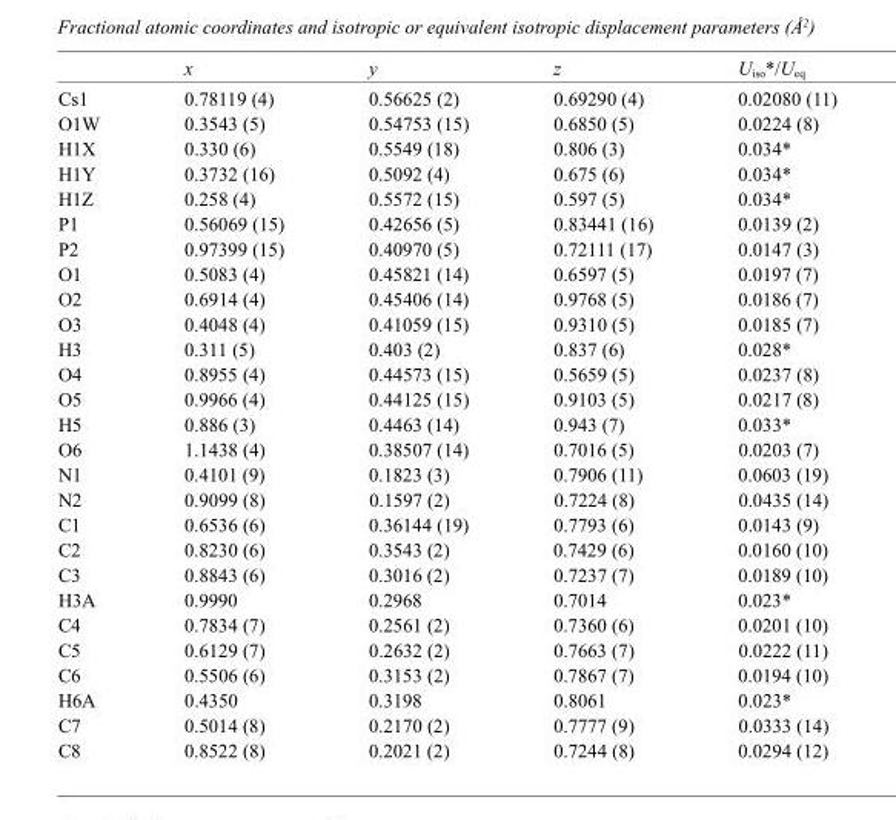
<table><thead><tr><td></td><td>x</td><td>y</td><td>z</td><td>U<sub>iso</sub>*/U<sub>eq</sub></td></tr></thead><tbody><tr><td>Cs1</td><td>0.78119 (4)</td><td>0.56625 (2)</td><td>0.69290 (4)</td><td>0.02080 (11)</td></tr><tr><td>O1W</td><td>0.3543 (5)</td><td>0.54753 (15)</td><td>0.6850 (5)</td><td>0.0224 (8)</td></tr><tr><td>H1X</td><td>0.330 (6)</td><td>0.5549 (18)</td><td>0.806 (3)</td><td>0.034*</td></tr><tr><td>H1Y</td><td>0.3732 (16)</td><td>0.5092 (4)</td><td>0.675 (6)</td><td>0.034*</td></tr><tr><td>H1Z</td><td>0.258 (4)</td><td>0.5572 (15)</td><td>0.597 (5)</td><td>0.034*</td></tr><tr><td>P1</td><td>0.56069 (15)</td><td>0.42656 (5)</td><td>0.83441 (16)</td><td>0.0139 (2)</td></tr><tr><td>P2</td><td>0.97399 (15)</td><td>0.40970 (5)</td><td>0.72111 (17)</td><td>0.0147 (3)</td></tr><tr><td>O1</td><td>0.5083 (4)</td><td>0.45821 (14)</td><td>0.6597 (5)</td><td>0.0197 (7)</td></tr><tr><td>O2</td><td>0.6914 (4)</td><td>0.45406 (14)</td><td>0.9768 (5)</td><td>0.0186 (7)</td></tr><tr><td>O3</td><td>0.4048 (4)</td><td>0.41059 (15)</td><td>0.9310 (5)</td><td>0.0185 (7)</td></tr><tr><td>H3</td><td>0.311 (5)</td><td>0.403 (2)</td><td>0.837 (6)</td><td>0.028*</td></tr><tr><td>O4</td><td>0.8955 (4)</td><td>0.44573 (15)</td><td>0.5659 (5)</td><td>0.0237 (8)</td></tr><tr><td>O5</td><td>0.9966 (4)</td><td>0.44125 (15)</td><td>0.9103 (5)</td><td>0.0217 (8)</td></tr><tr><td>H5</td><td>0.886 (3)</td><td>0.4463 (14)</td><td>0.943 (7)</td><td>0.033*</td></tr><tr><td>O6</td><td>1.1438 (4)</td><td>0.38507 (14)</td><td>0.7016 (5)</td><td>0.0203 (7)</td></tr><tr><td>N1</td><td>0.4101 (9)</td><td>0.1823 (3)</td><td>0.7906 (11)</td><td>0.0603 (19)</td></tr><tr><td>N2</td><td>0.9099 (8)</td><td>0.1597 (2)</td><td>0.7224 (8)</td><td>0.0435 (14)</td></tr><tr><td>C1</td><td>0.6536 (6)</td><td>0.36144 (19)</td><td>0.7793 (6)</td><td>0.0143 (9)</td></tr><tr><td>C2</td><td>0.8230 (6)</td><td>0.3543 (2)</td><td>0.7429 (6)</td><td>0.0160 (10)</td></tr><tr><td>C3</td><td>0.8843 (6)</td><td>0.3016 (2)</td><td>0.7237 (7)</td><td>0.0189 (10)</td></tr><tr><td>H3A</td><td>0.9990</td><td>0.2968</td><td>0.7014</td><td>0.023*</td></tr><tr><td>C4</td><td>0.7834 (7)</td><td>0.2561 (2)</td><td>0.7360 (6)</td><td>0.0201 (10)</td></tr><tr><td>C5</td><td>0.6129 (7)</td><td>0.2632 (2)</td><td>0.7663 (7)</td><td>0.0222 (11)</td></tr><tr><td>C6</td><td>0.5506 (6)</td><td>0.3153 (2)</td><td>0.7867 (7)</td><td>0.0194 (10)</td></tr><tr><td>H6A</td><td>0.4350</td><td>0.3198</td><td>0.8061</td><td>0.023*</td></tr><tr><td>C7</td><td>0.5014 (8)</td><td>0.2170 (2)</td><td>0.7777 (9)</td><td>0.0333 (14)</td></tr><tr><td>C8</td><td>0.8522 (8)</td><td>0.2021 (2)</td><td>0.7244 (8)</td><td>0.0294 (12)</td></tr></tbody></table>